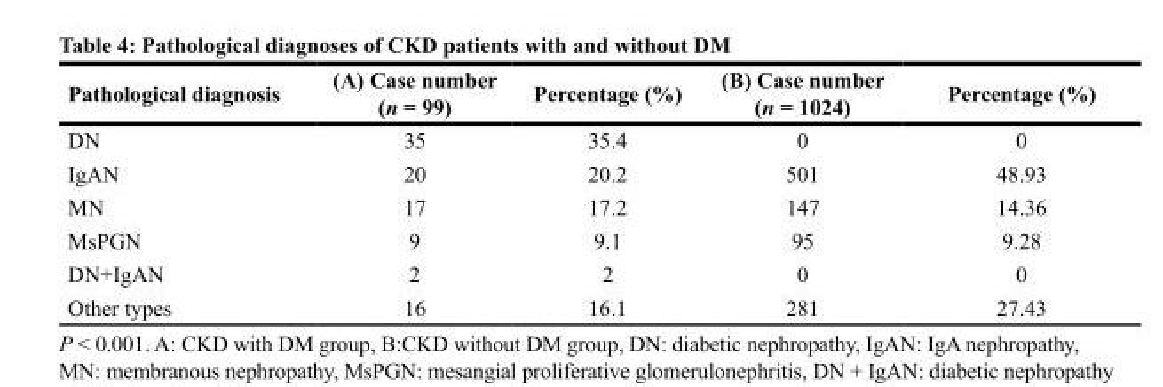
<table><thead><tr><td>Pathological diagnosis</td><td>(A) Case number (n = 99)</td><td>Percentage (%)</td><td>(B) Case number (n = 1024)</td><td>Percentage (%)</td></tr></thead><tbody><tr><td>DN</td><td>35</td><td>35.4</td><td>0</td><td>0</td></tr><tr><td>IgAN</td><td>20</td><td>20.2</td><td>501</td><td>48.93</td></tr><tr><td>MN</td><td>17</td><td>17.2</td><td>147</td><td>14.36</td></tr><tr><td>MsPGN</td><td>9</td><td>9.1</td><td>95</td><td>9.28</td></tr><tr><td>DN+IgAN</td><td>2</td><td>2</td><td>0</td><td>0</td></tr><tr><td>Other types</td><td>16</td><td>16.1</td><td>281</td><td>27.43</td></tr></tbody></table>